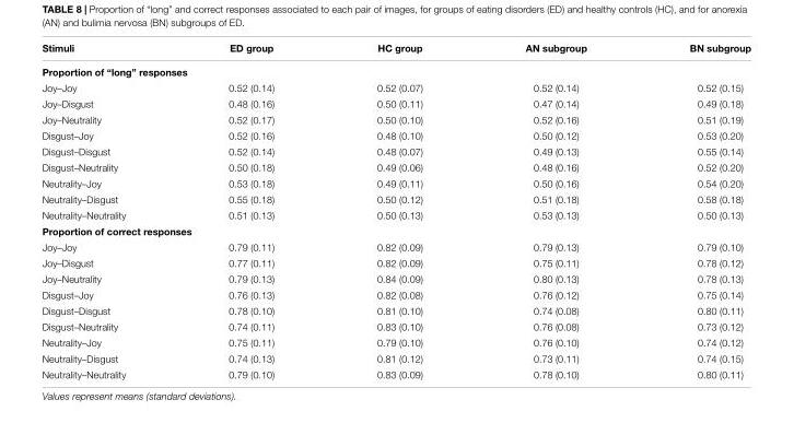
<table><thead><tr><td>Stimuli</td><td>ED group</td><td>HC group</td><td>AN subgroup</td><td>BN subgroup</td></tr></thead><tbody><tr><td colspan="5">Proportion of “long” responses</td></tr><tr><td>Joy–Joy</td><td>0.52 (0.14)</td><td>0.52 (0.07)</td><td>0.52 (0.14)</td><td>0.52 (0.15)</td></tr><tr><td>Joy–Disgust</td><td>0.48 (0.16)</td><td>0.50 (0.11)</td><td>0.47 (0.14)</td><td>0.49 (0.18)</td></tr><tr><td>Joy–Neutrality</td><td>0.52 (0.17)</td><td>0.50 (0.10)</td><td>0.52 (0.16)</td><td>0.51 (0.19)</td></tr><tr><td>Disgust–Joy</td><td>0.52 (0.16)</td><td>0.48 (0.10)</td><td>0.50 (0.12)</td><td>0.53 (0.20)</td></tr><tr><td>Disgust–Disgust</td><td>0.52 (0.14)</td><td>0.48 (0.07)</td><td>0.49 (0.13)</td><td>0.55 (0.14)</td></tr><tr><td>Disgust–Neutrality</td><td>0.50 (0.18)</td><td>0.49 (0.06)</td><td>0.48 (0.16)</td><td>0.52 (0.20)</td></tr><tr><td>Neutrality–Joy</td><td>0.53 (0.18)</td><td>0.49 (0.11)</td><td>0.50 (0.16)</td><td>0.54 (0.20)</td></tr><tr><td>Neutrality–Disgust</td><td>0.55 (0.18)</td><td>0.50 (0.12)</td><td>0.51 (0.18)</td><td>0.58 (0.18)</td></tr><tr><td>Neutrality–Neutrality</td><td>0.51 (0.13)</td><td>0.50 (0.13)</td><td>0.53 (0.13)</td><td>0.50 (0.13)</td></tr><tr><td colspan="5">Proportion of correct responses</td></tr><tr><td>Joy–Joy</td><td>0.79 (0.11)</td><td>0.82 (0.09)</td><td>0.79 (0.13)</td><td>0.79 (0.10)</td></tr><tr><td>Joy–Disgust</td><td>0.77 (0.11)</td><td>0.82 (0.09)</td><td>0.75 (0.11)</td><td>0.78 (0.12)</td></tr><tr><td>Joy–Neutrality</td><td>0.79 (0.13)</td><td>0.84 (0.09)</td><td>0.80 (0.13)</td><td>0.78 (0.13)</td></tr><tr><td>Disgust–Joy</td><td>0.76 (0.13)</td><td>0.82 (0.08)</td><td>0.76 (0.12)</td><td>0.75 (0.14)</td></tr><tr><td>Disgust–Disgust</td><td>0.78 (0.10)</td><td>0.81 (0.10)</td><td>0.74 (0.08)</td><td>0.80 (0.11)</td></tr><tr><td>Disgust–Neutrality</td><td>0.74 (0.11)</td><td>0.83 (0.10)</td><td>0.76 (0.08)</td><td>0.73 (0.12)</td></tr><tr><td>Neutrality–Joy</td><td>0.75 (0.11)</td><td>0.79 (0.10)</td><td>0.76 (0.10)</td><td>0.74 (0.12)</td></tr><tr><td>Neutrality–Disgust</td><td>0.74 (0.13)</td><td>0.81 (0.12)</td><td>0.73 (0.11)</td><td>0.74 (0.15)</td></tr><tr><td>Neutrality–Neutrality</td><td>0.79 (0.10)</td><td>0.83 (0.09)</td><td>0.78 (0.10)</td><td>0.80 (0.11)</td></tr></tbody></table>